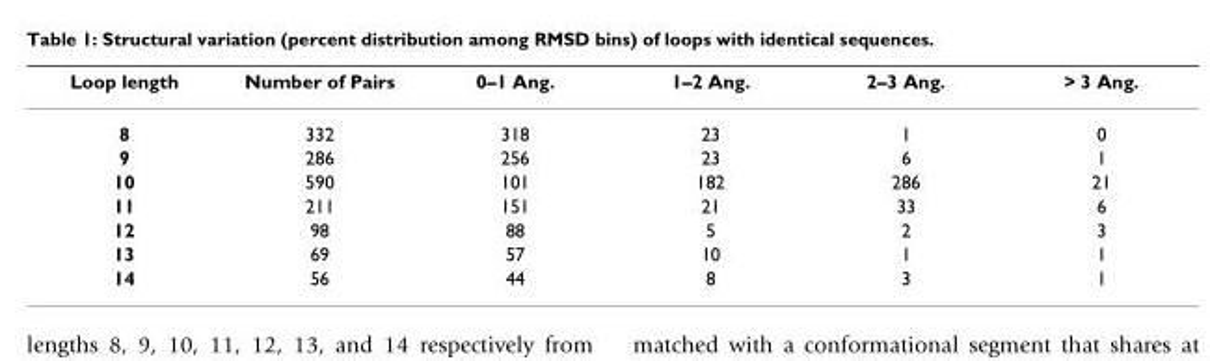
<table><thead><tr><td>Loop length</td><td>Number of Pairs</td><td>0–1 Ang.</td><td>1–2 Ang.</td><td>2–3 Ang.</td><td>&gt; 3 Ang.</td></tr></thead><tbody><tr><td>8</td><td>332</td><td>318</td><td>23</td><td>1</td><td>0</td></tr><tr><td>9</td><td>286</td><td>256</td><td>23</td><td>6</td><td>1</td></tr><tr><td>10</td><td>590</td><td>101</td><td>182</td><td>286</td><td>21</td></tr><tr><td>11</td><td>211</td><td>151</td><td>21</td><td>33</td><td>6</td></tr><tr><td>12</td><td>98</td><td>88</td><td>5</td><td>2</td><td>3</td></tr><tr><td>13</td><td>69</td><td>57</td><td>10</td><td>1</td><td>1</td></tr><tr><td>14</td><td>56</td><td>44</td><td>8</td><td>3</td><td>1</td></tr></tbody></table>